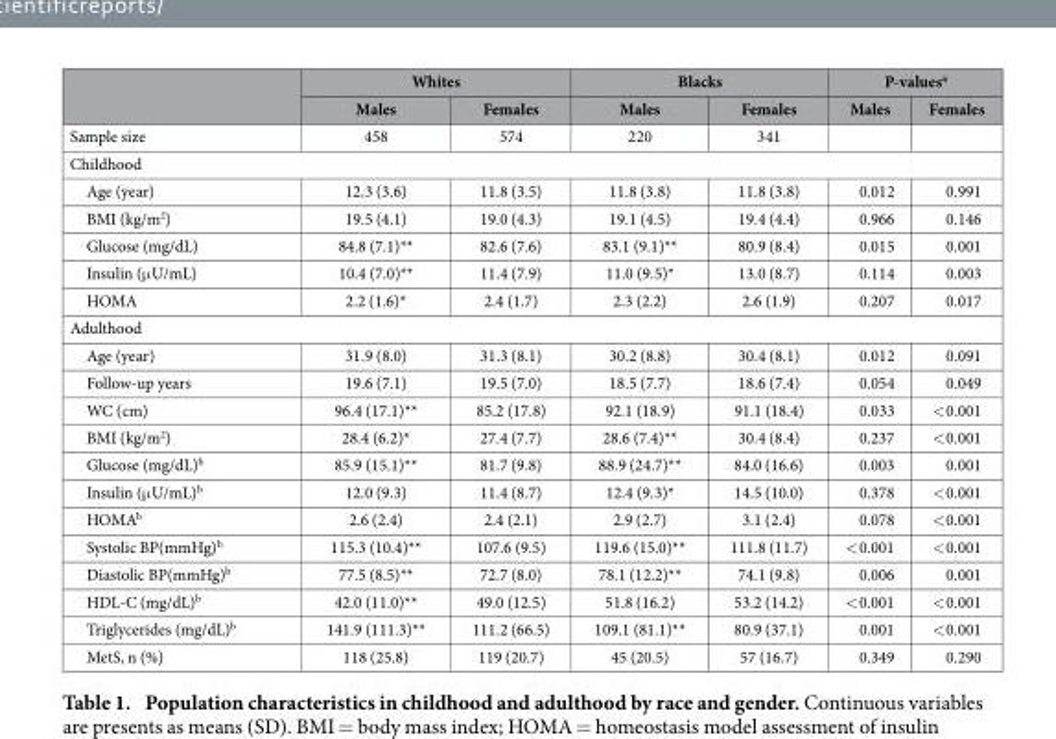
<table><thead><tr><td rowspan="2"></td><td colspan="2">Whites</td><td colspan="2">Blacks</td><td colspan="2">P-values<sup>a</sup></td></tr><tr><td>Males</td><td>Females</td><td>Males</td><td>Females</td><td>Males</td><td>Females</td></tr></thead><tbody><tr><td>Sample size</td><td>458</td><td>574</td><td>220</td><td>341</td><td></td><td></td></tr><tr><td colspan="7">Childhood</td></tr><tr><td>Age (year)</td><td>12.3 (3.6)</td><td>11.8 (3.5)</td><td>11.8 (3.8)</td><td>11.8 (3.8)</td><td>0.012</td><td>0.991</td></tr><tr><td>BMI (kg/m<sup>2</sup>)</td><td>19.5 (4.1)</td><td>19.0 (4.3)</td><td>19.1 (4.5)</td><td>19.4 (4.4)</td><td>0.966</td><td>0.146</td></tr><tr><td>Glucose (mg/dL)</td><td>84.8 (7.1)**</td><td>82.6 (7.6)</td><td>83.1 (9.1)**</td><td>80.9 (8.4)</td><td>0.015</td><td>0.001</td></tr><tr><td>Insulin (μ U/mL)</td><td>10.4 (7.0)**</td><td>11.4 (7.9)</td><td>11.0 (9.5)*</td><td>13.0 (8.7)</td><td>0.114</td><td>0.003</td></tr><tr><td>HOMA</td><td>2.2 (1.6)*</td><td>2.4 (1.7)</td><td>2.3 (2.2)</td><td>2.6 (1.9)</td><td>0.207</td><td>0.017</td></tr><tr><td colspan="7">Adulthood</td></tr><tr><td>Age (year)</td><td>31.9 (8.0)</td><td>31.3 (8.1)</td><td>30.2 (8.8)</td><td>30.4 (8.1)</td><td>0.012</td><td>0.091</td></tr><tr><td>Follow-up years</td><td>19.6 (7.1)</td><td>19.5 (7.0)</td><td>18.5 (7.7)</td><td>18.6 (7.4)</td><td>0.054</td><td>0.049</td></tr><tr><td>WC (cm)</td><td>96.4 (17.1)**</td><td>85.2 (17.8)</td><td>92.1 (18.9)</td><td>91.1 (18.4)</td><td>0.033</td><td>&lt; 0.001</td></tr><tr><td>BMI (kg/m<sup>2</sup>)</td><td>28.4 (6.2)*</td><td>27.4 (7.7)</td><td>28.6 (7.4)**</td><td>30.4 (8.4)</td><td>0.237</td><td>&lt; 0.001</td></tr><tr><td>Glucose (mg/dL)<sup>b</sup></td><td>85.9 (15.1)**</td><td>81.7 (9.8)</td><td>88.9 (24.7)**</td><td>84.0 (16.6)</td><td>0.003</td><td>0.001</td></tr><tr><td>Insulin (μ U/mL)<sup>b</sup></td><td>12.0 (9.3)</td><td>11.4 (8.7)</td><td>12.4 (9.3)*</td><td>14.5 (10.0)</td><td>0.378</td><td>&lt; 0.001</td></tr><tr><td>HOMA<sup>b</sup></td><td>2.6 (2.4)</td><td>2.4 (2.1)</td><td>2.9 (2.7)</td><td>3.1 (2.4)</td><td>0.078</td><td>&lt; 0.001</td></tr><tr><td>Systolic BP(mmHg)<sup>b</sup></td><td>115.3 (10.4)**</td><td>107.6 (9.5)</td><td>119.6 (15.0)**</td><td>111.8 (11.7)</td><td>&lt; 0.001</td><td>&lt; 0.001</td></tr><tr><td>Diastolic BP(mmHg)<sup>b</sup></td><td>77.5 (8.5)**</td><td>72.7 (8.0)</td><td>78.1 (12.2)**</td><td>74.1 (9.8)</td><td>0.006</td><td>0.001</td></tr><tr><td>HDL-C (mg/dL)<sup>b</sup></td><td>42.0 (11.0)**</td><td>49.0 (12.5)</td><td>51.8 (16.2)</td><td>53.2 (14.2)</td><td>&lt; 0.001</td><td>&lt; 0.001</td></tr><tr><td>Triglycerides (mg/dL)<sup>b</sup></td><td>141.9 (111.3)**</td><td>111.2 (66.5)</td><td>109.1 (81.1)**</td><td>80.9 (37.1)</td><td>0.001</td><td>&lt; 0.001</td></tr><tr><td>MetS, n (%)</td><td>118 (25.8)</td><td>119 (20.7)</td><td>45 (20.5)</td><td>57 (16.7)</td><td>0.349</td><td>0.290</td></tr></tbody></table>